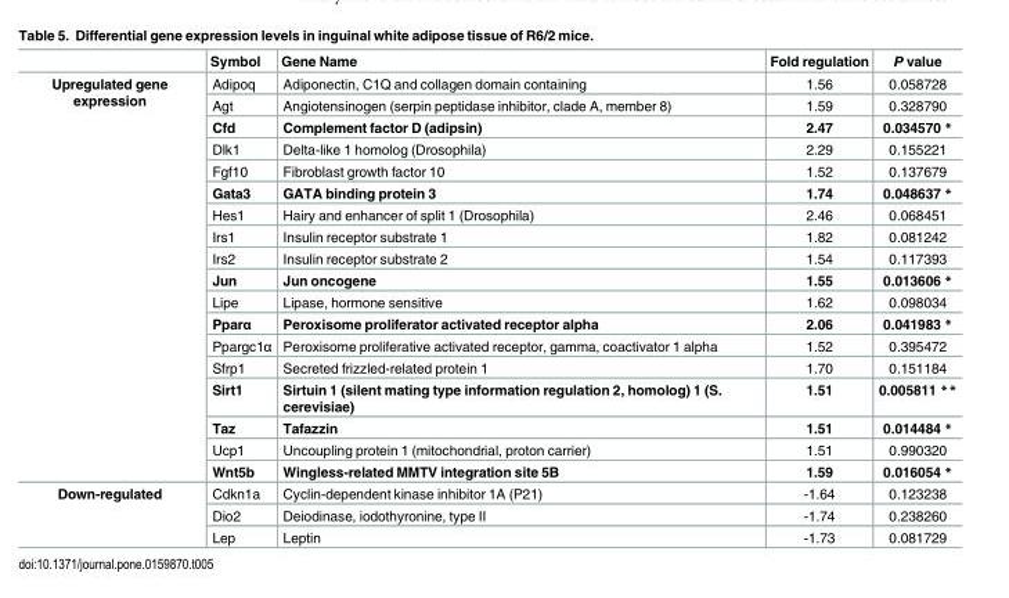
<table><thead><tr><td></td><td>Symbol</td><td>Gene Name</td><td>Fold regulation</td><td>P value</td></tr></thead><tbody><tr><td rowspan="18">Upregulated gene expression</td><td>Adipoq</td><td>Adiponectin, C1Q and collagen domain containing</td><td>1.56</td><td>0.058728</td></tr><tr><td>Agt</td><td>Angiotensinogen (serpin peptidase inhibitor, clade A, member 8)</td><td>1.59</td><td>0.328790</td></tr><tr><td>Cfd</td><td>Complement factor D (adipsin)</td><td>2.47</td><td>0.034570 *</td></tr><tr><td>Dlk1</td><td>Delta-like 1 homolog (Drosophila)</td><td>2.29</td><td>0.155221</td></tr><tr><td>Fgf10</td><td>Fibroblast growth factor 10</td><td>1.52</td><td>0.137679</td></tr><tr><td>Gata3</td><td>GATA binding protein 3</td><td>1.74</td><td>0.048637 *</td></tr><tr><td>Hes1</td><td>Hairy and enhancer of split 1 (Drosophila)</td><td>2.46</td><td>0.068451</td></tr><tr><td>Irs1</td><td>Insulin receptor substrate 1</td><td>1.82</td><td>0.081242</td></tr><tr><td>Irs2</td><td>Insulin receptor substrate 2</td><td>1.54</td><td>0.117393</td></tr><tr><td>Jun</td><td>Jun oncogene</td><td>1.55</td><td>0.013606 *</td></tr><tr><td>Lipe</td><td>Lipase, hormone sensitive</td><td>1.62</td><td>0.098034</td></tr><tr><td>Pparα</td><td>Peroxisome proliferator activated receptor alpha</td><td>2.06</td><td>0.041983 *</td></tr><tr><td>Ppargc1α</td><td>Peroxisome proliferative activated receptor, gamma, coactivator 1 alpha</td><td>1.52</td><td>0.395472</td></tr><tr><td>Sfrp1</td><td>Secreted frizzled-related protein 1</td><td>1.70</td><td>0.151184</td></tr><tr><td>Sirt1</td><td>Sirtuin 1 (silent mating type information regulation 2, homolog) 1 (S. cerevisiae)</td><td>1.51</td><td>0.005811 **</td></tr><tr><td>Taz</td><td>Tafazzin</td><td>1.51</td><td>0.014484 *</td></tr><tr><td>Ucp1</td><td>Uncoupling protein 1 (mitochondrial, proton carrier)</td><td>1.51</td><td>0.990320</td></tr><tr><td>Wnt5b</td><td>Wingless-related MMTV integration site 5B</td><td>1.59</td><td>0.016054 *</td></tr><tr><td rowspan="3">Down-regulated</td><td>Cdkn1a</td><td>Cyclin-dependent kinase inhibitor 1A (P21)</td><td>-1.64</td><td>0.123238</td></tr><tr><td>Dio2</td><td>Deiodinase, iodothyronine, type II</td><td>-1.74</td><td>0.238260</td></tr><tr><td>Lep</td><td>Leptin</td><td>-1.73</td><td>0.081729</td></tr></tbody></table>